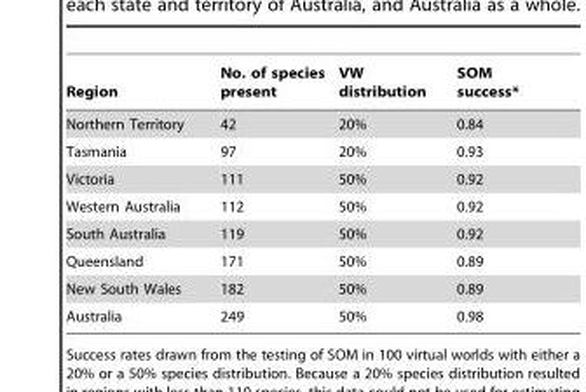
<table><thead><tr><td>Region</td><td>No. of species present</td><td>VW distribution</td><td>SOM success*</td></tr></thead><tbody><tr><td>Northern Territory</td><td>42</td><td>20%</td><td>0.84</td></tr><tr><td>Tasmania</td><td>97</td><td>20%</td><td>0.93</td></tr><tr><td>Victoria</td><td>111</td><td>50%</td><td>0.92</td></tr><tr><td>Western Australia</td><td>112</td><td>50%</td><td>0.92</td></tr><tr><td>South Australia</td><td>119</td><td>50%</td><td>0.92</td></tr><tr><td>Queensland</td><td>171</td><td>50%</td><td>0.89</td></tr><tr><td>New South Wales</td><td>182</td><td>50%</td><td>0.89</td></tr><tr><td>Australia</td><td>249</td><td>50%</td><td>0.98</td></tr></tbody></table>